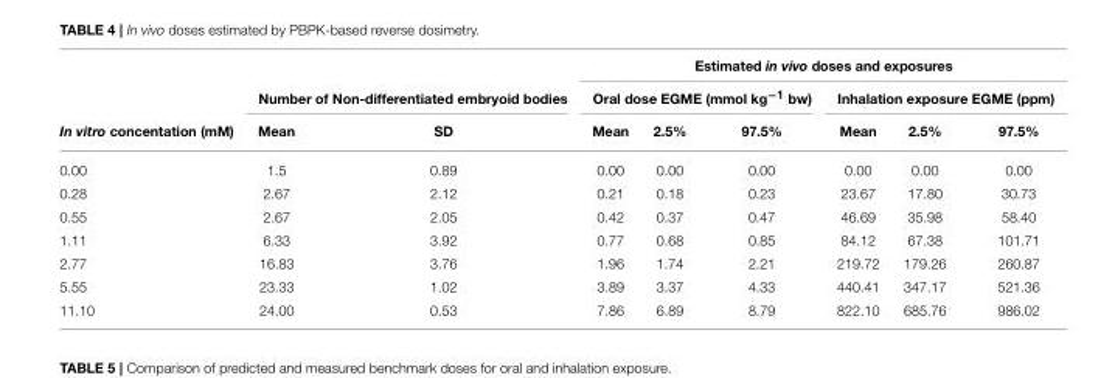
<table><thead><tr><td rowspan="3">In vitro concentation (mM)</td><td></td><td></td><td colspan="6">Estimated in vivo doses and exposures</td></tr><tr><td colspan="2">Number of Non-differentiated embryoid bodies</td><td colspan="3">Oral dose EGME (mmol kg<sup>−1</sup> bw)</td><td colspan="3">Inhalation exposure EGME (ppm)</td></tr><tr><td>Mean</td><td>SD</td><td>Mean</td><td>2.5%</td><td>97.5%</td><td>Mean</td><td>2.5%</td><td>97.5%</td></tr></thead><tbody><tr><td>0.00</td><td>1.5</td><td>0.89</td><td>0.00</td><td>0.00</td><td>0.00</td><td>0.00</td><td>0.00</td><td>0.00</td></tr><tr><td>0.28</td><td>2.67</td><td>2.12</td><td>0.21</td><td>0.18</td><td>0.23</td><td>23.67</td><td>17.80</td><td>30.73</td></tr><tr><td>0.55</td><td>2.67</td><td>2.05</td><td>0.42</td><td>0.37</td><td>0.47</td><td>46.69</td><td>35.98</td><td>58.40</td></tr><tr><td>1.11</td><td>6.33</td><td>3.92</td><td>0.77</td><td>0.68</td><td>0.85</td><td>84.12</td><td>67.38</td><td>101.71</td></tr><tr><td>2.77</td><td>16.83</td><td>3.76</td><td>1.96</td><td>1.74</td><td>2.21</td><td>219.72</td><td>179.26</td><td>260.87</td></tr><tr><td>5.55</td><td>23.33</td><td>1.02</td><td>3.89</td><td>3.37</td><td>4.33</td><td>440.41</td><td>347.17</td><td>521.36</td></tr><tr><td>11.10</td><td>24.00</td><td>0.53</td><td>7.86</td><td>6.89</td><td>8.79</td><td>822.10</td><td>685.76</td><td>986.02</td></tr></tbody></table>